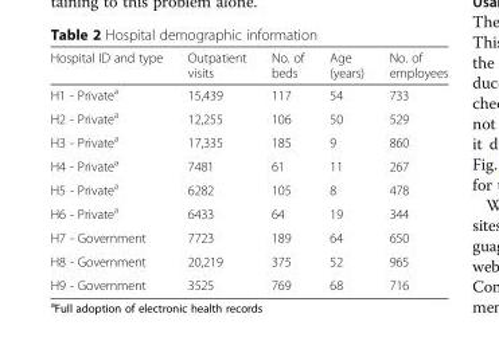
<table><thead><tr><td>Hospital ID and type</td><td>Outpatient visits</td><td>No. of beds</td><td>Age (years)</td><td>No. of employees</td></tr></thead><tbody><tr><td>H1 - Private<sup>a</sup></td><td>15,439</td><td>117</td><td>54</td><td>733</td></tr><tr><td>H2 - Private<sup>a</sup></td><td>12,255</td><td>106</td><td>50</td><td>529</td></tr><tr><td>H3 - Private<sup>a</sup></td><td>17,335</td><td>185</td><td>9</td><td>860</td></tr><tr><td>H4 - Private<sup>a</sup></td><td>7481</td><td>61</td><td>11</td><td>267</td></tr><tr><td>H5 - Private<sup>a</sup></td><td>6282</td><td>105</td><td>8</td><td>478</td></tr><tr><td>H6 - Private<sup>a</sup></td><td>6433</td><td>64</td><td>19</td><td>344</td></tr><tr><td>H7 - Government</td><td>7723</td><td>189</td><td>64</td><td>650</td></tr><tr><td>H8 - Government</td><td>20,219</td><td>375</td><td>52</td><td>965</td></tr><tr><td>H9 - Government</td><td>3525</td><td>769</td><td>68</td><td>716</td></tr></tbody></table>